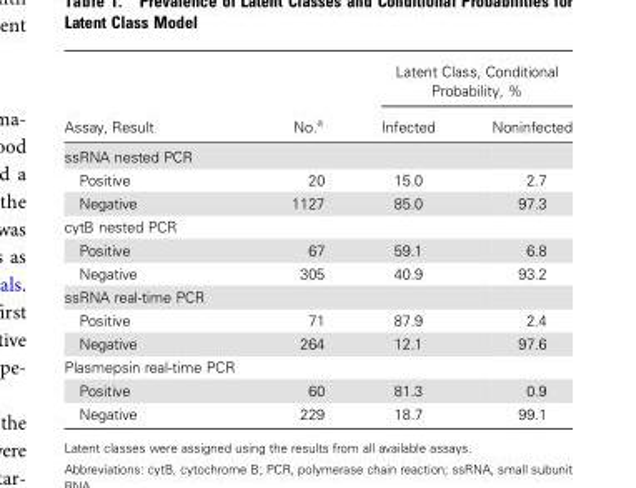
<table><thead><tr><td rowspan="2">Assay, Result</td><td rowspan="2">No.<sup>a</sup></td><td colspan="2">Latent Class, Conditional Probability, %</td></tr><tr><td>Infected</td><td>Noninfected</td></tr></thead><tbody><tr><td colspan="4">ssRNA nested PCR</td></tr><tr><td>Positive</td><td>20</td><td>15.0</td><td>2.7</td></tr><tr><td>Negative</td><td>1127</td><td>85.0</td><td>97.3</td></tr><tr><td colspan="4">cytB nested PCR</td></tr><tr><td>Positive</td><td>67</td><td>59.1</td><td>6.8</td></tr><tr><td>Negative</td><td>305</td><td>40.9</td><td>93.2</td></tr><tr><td colspan="4">ssRNA real-time PCR</td></tr><tr><td>Positive</td><td>71</td><td>87.9</td><td>2.4</td></tr><tr><td>Negative</td><td>264</td><td>12.1</td><td>97.6</td></tr><tr><td colspan="4">Plasmepsin real-time PCR</td></tr><tr><td>Positive</td><td>60</td><td>81.3</td><td>0.9</td></tr><tr><td>Negative</td><td>229</td><td>18.7</td><td>99.1</td></tr></tbody></table>